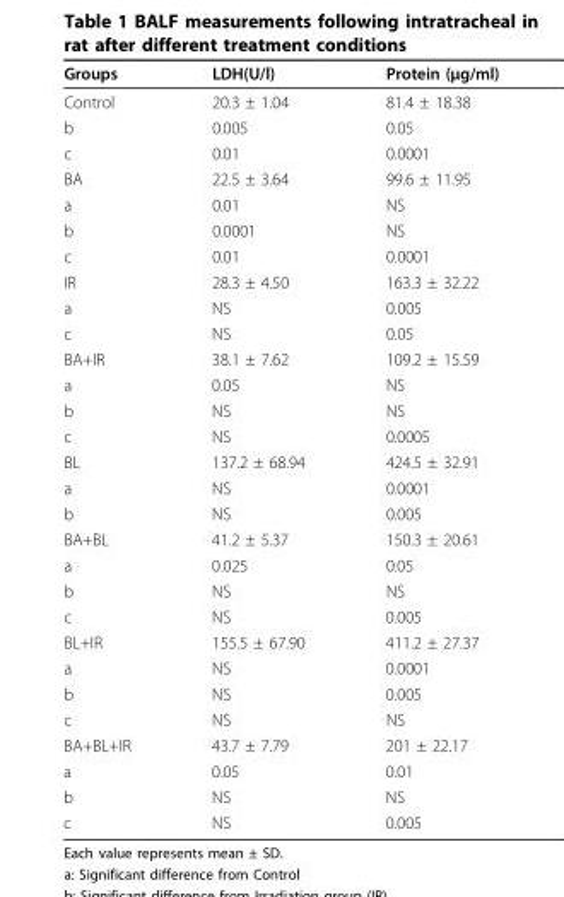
<table><thead><tr><td>Groups</td><td>LDH(U/l)</td><td>Protein (μg/ml)</td></tr></thead><tbody><tr><td>Control</td><td>20.3 ± 1.04</td><td>81.4 ± 18.38</td></tr><tr><td>b</td><td>0.005</td><td>0.05</td></tr><tr><td>c</td><td>0.01</td><td>0.0001</td></tr><tr><td>BA</td><td>22.5 ± 3.64</td><td>99.6 ± 11.95</td></tr><tr><td>a</td><td>0.01</td><td>NS</td></tr><tr><td>b</td><td>0.0001</td><td>NS</td></tr><tr><td>c</td><td>0.01</td><td>0.0001</td></tr><tr><td>IR</td><td>28.3 ± 4.50</td><td>163.3 ± 32.22</td></tr><tr><td>a</td><td>NS</td><td>0.005</td></tr><tr><td>c</td><td>NS</td><td>0.05</td></tr><tr><td>BA+IR</td><td>38.1 ± 7.62</td><td>109.2 ± 15.59</td></tr><tr><td>a</td><td>0.05</td><td>NS</td></tr><tr><td>b</td><td>NS</td><td>NS</td></tr><tr><td>c</td><td>NS</td><td>0.0005</td></tr><tr><td>BL</td><td>137.2 ± 68.94</td><td>424.5 ± 32.91</td></tr><tr><td>a</td><td>NS</td><td>0.0001</td></tr><tr><td>b</td><td>NS</td><td>0.005</td></tr><tr><td>BA+BL</td><td>41.2 ± 5.37</td><td>150.3 ± 20.61</td></tr><tr><td>a</td><td>0.025</td><td>0.05</td></tr><tr><td>b</td><td>NS</td><td>NS</td></tr><tr><td>c</td><td>NS</td><td>0.005</td></tr><tr><td>BL+IR</td><td>155.5 ± 67.90</td><td>411.2 ± 27.37</td></tr><tr><td>a</td><td>NS</td><td>0.0001</td></tr><tr><td>b</td><td>NS</td><td>0.005</td></tr><tr><td>c</td><td>NS</td><td>NS</td></tr><tr><td>BA+BL+IR</td><td>43.7 ± 7.79</td><td>201 ± 22.17</td></tr><tr><td>a</td><td>0.05</td><td>0.01</td></tr><tr><td>b</td><td>NS</td><td>NS</td></tr><tr><td>c</td><td>NS</td><td>0.005</td></tr></tbody></table>